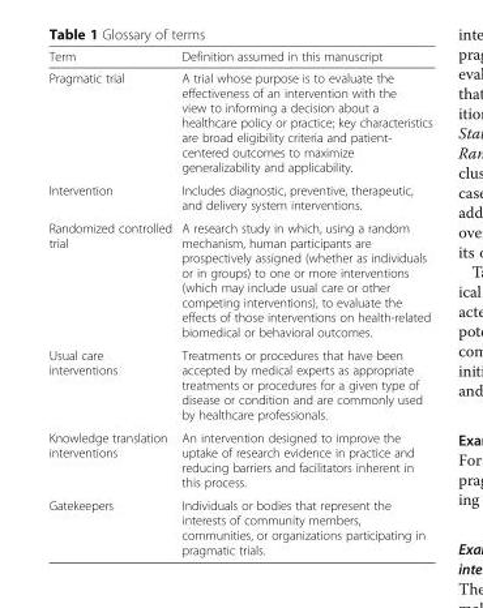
<table><thead><tr><td>Term</td><td>Definition assumed in this manuscript</td></tr></thead><tbody><tr><td>Pragmatic trial</td><td>A trial whose purpose is to evaluate the effectiveness of an intervention with the view to informing a decision about a healthcare policy or practice; key characteristics are broad eligibility criteria and patient- centered outcomes to maximize generalizability and applicability.</td></tr><tr><td>Intervention</td><td>Includes diagnostic, preventive, therapeutic, and delivery system interventions.</td></tr><tr><td>Randomized controlled trial</td><td>A research study in which, using a random mechanism, human participants are prospectively assigned (whether as individuals or in groups) to one or more interventions (which may include usual care or other competing interventions), to evaluate the effects of those interventions on health-related biomedical or behavioral outcomes.</td></tr><tr><td>Usual care interventions</td><td>Treatments or procedures that have been accepted by medical experts as appropriate treatments or procedures for a given type of disease or condition and are commonly used by healthcare professionals.</td></tr><tr><td>Knowledge translation interventions</td><td>An intervention designed to improve the uptake of research evidence in practice and reducing barriers and facilitators inherent in this process.</td></tr><tr><td>Gatekeepers</td><td>Individuals or bodies that represent the interests of community members, communities, or organizations participating in pragmatic trials.</td></tr></tbody></table>